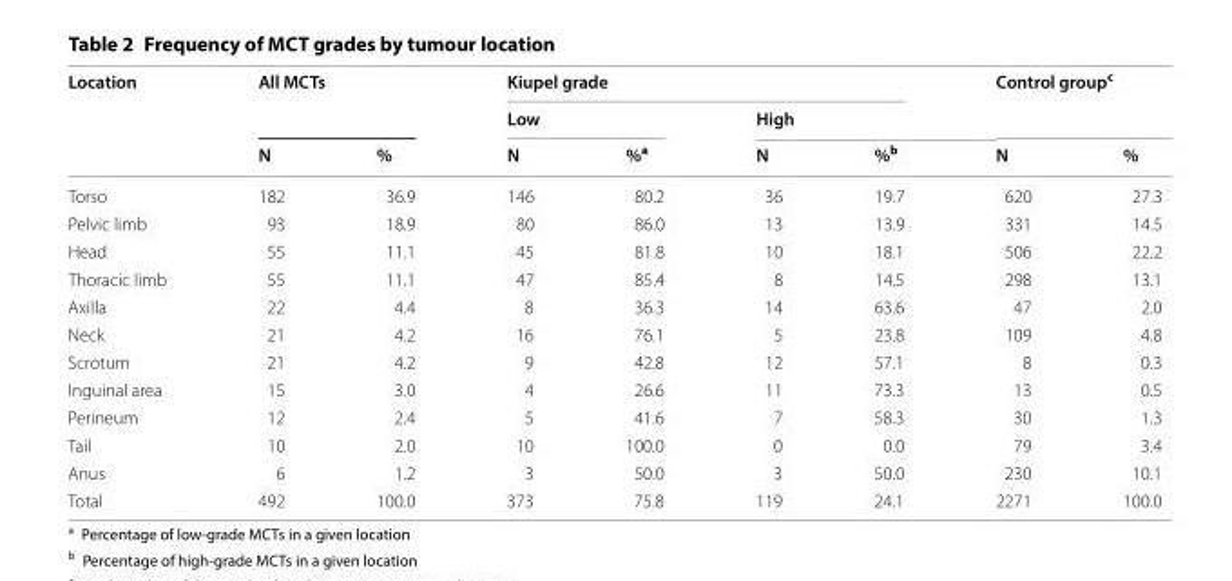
<table><thead><tr><td rowspan="3">Location</td><td rowspan="2" colspan="2">All MCTs</td><td colspan="4">Kiupel grade</td><td rowspan="2" colspan="2">Control group<sup>c</sup></td></tr><tr><td colspan="2">Low</td><td colspan="2">High</td></tr><tr><td>N</td><td>%</td><td>N</td><td>%<sup>a</sup></td><td>N</td><td>%<sup>b</sup></td><td>N</td><td>%</td></tr></thead><tbody><tr><td>Torso</td><td>182</td><td>36.9</td><td>146</td><td>80.2</td><td>36</td><td>19.7</td><td>620</td><td>27.3</td></tr><tr><td>Pelvic limb</td><td>93</td><td>18.9</td><td>80</td><td>86.0</td><td>13</td><td>13.9</td><td>331</td><td>14.5</td></tr><tr><td>Head</td><td>55</td><td>11.1</td><td>45</td><td>81.8</td><td>10</td><td>18.1</td><td>506</td><td>22.2</td></tr><tr><td>Thoracic limb</td><td>55</td><td>11.1</td><td>47</td><td>85.4</td><td>8</td><td>14.5</td><td>298</td><td>13.1</td></tr><tr><td>Axilla</td><td>22</td><td>4.4</td><td>8</td><td>36.3</td><td>14</td><td>63.6</td><td>47</td><td>2.0</td></tr><tr><td>Neck</td><td>21</td><td>4.2</td><td>16</td><td>76.1</td><td>5</td><td>23.8</td><td>109</td><td>4.8</td></tr><tr><td>Scrotum</td><td>21</td><td>4.2</td><td>9</td><td>42.8</td><td>12</td><td>57.1</td><td>8</td><td>0.3</td></tr><tr><td>Inguinal area</td><td>15</td><td>3.0</td><td>4</td><td>26.6</td><td>11</td><td>73.3</td><td>13</td><td>0.5</td></tr><tr><td>Perineum</td><td>12</td><td>2.4</td><td>5</td><td>41.6</td><td>7</td><td>58.3</td><td>30</td><td>1.3</td></tr><tr><td>Tail</td><td>10</td><td>2.0</td><td>10</td><td>100.0</td><td>0</td><td>0.0</td><td>79</td><td>3.4</td></tr><tr><td>Anus</td><td>6</td><td>1.2</td><td>3</td><td>50.0</td><td>3</td><td>50.0</td><td>230</td><td>10.1</td></tr><tr><td>Total</td><td>492</td><td>100.0</td><td>373</td><td>75.8</td><td>119</td><td>24.1</td><td>2271</td><td>100.0</td></tr></tbody></table>